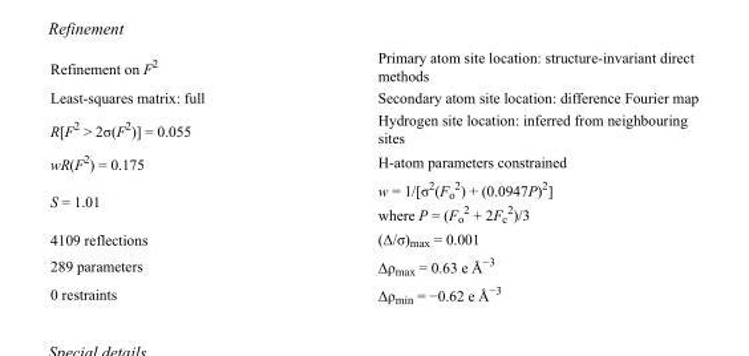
<table><tbody><tr><td>Refinement on F<sup>2</sup></td><td>Primary atom site location: structure-invariant direct methods</td></tr><tr><td>Least-squares matrix: full</td><td>Secondary atom site location: difference Fourier map</td></tr><tr><td>R[F<sup>2</sup> &gt; 2σ(F<sup>2</sup>)] = 0.055</td><td>Hydrogen site location: inferred from neighbouring sites</td></tr><tr><td>wR(F<sup>2</sup>) = 0.175</td><td>H-atom parameters constrained</td></tr><tr><td>S = 1.01</td><td>w = 1/[σ<sup>2</sup>(F<sub>o</sub> <sup>2</sup>) + (0.0947P)<sup>2</sup>] where P = (F<sub>o</sub> <sup>2</sup> + 2F<sub>c</sub> <sup>2</sup>)/3</td></tr><tr><td>4109 reflections</td><td>(Δ/σ)<sub>max</sub> = 0.001</td></tr><tr><td>289 parameters</td><td>Δρ<sub>max</sub> = 0.63 e Å<sup>−3</sup></td></tr><tr><td>0 restraints</td><td>Δρ<sub>min</sub> = −0.62 e Å<sup>−3</sup></td></tr></tbody></table>